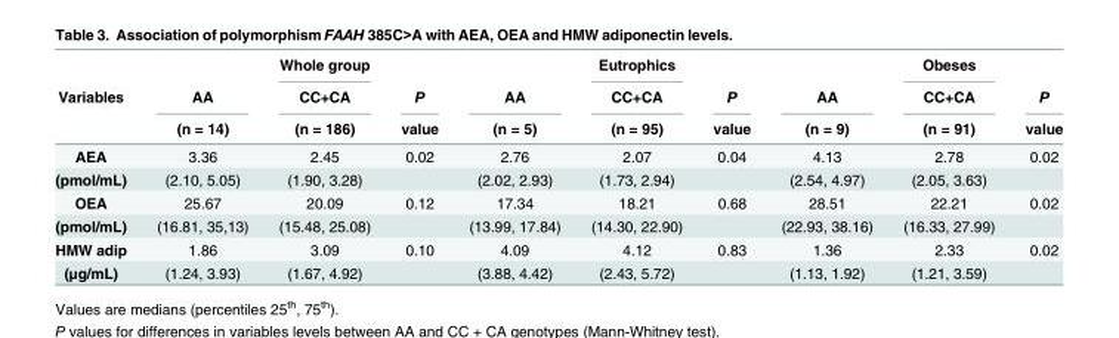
<table><thead><tr><td rowspan="3">Variables</td><td rowspan="3">AA (n = 14)</td><td rowspan="3">Whole group CC+CA (n = 186)</td><td rowspan="3">P value</td><td rowspan="3">AA (n = 5)</td><td rowspan="3">Eutrophics CC+CA (n = 95)</td><td rowspan="3">P value</td><td rowspan="3">AA (n = 9)</td><td rowspan="3">Obeses CC+CA (n = 91)</td><td rowspan="3">P value</td></tr><tr></tr><tr></tr></thead><tbody><tr><td>AEA</td><td>3.36</td><td>2.45</td><td>0.02</td><td>2.76</td><td>2.07</td><td>0.04</td><td>4.13</td><td>2.78</td><td>0.02</td></tr><tr><td>(pmol/mL)</td><td>(2.10, 5.05)</td><td>(1.90, 3.28)</td><td></td><td>(2.02, 2.93)</td><td>(1.73, 2.94)</td><td></td><td>(2.54, 4.97)</td><td>(2.05, 3.63)</td><td></td></tr><tr><td>OEA</td><td>25.67</td><td>20.09</td><td>0.12</td><td>17.34</td><td>18.21</td><td>0.68</td><td>28.51</td><td>22.21</td><td>0.02</td></tr><tr><td>(pmol/mL)</td><td>(16.81, 35,13)</td><td>(15.48, 25.08)</td><td></td><td>(13.99, 17.84)</td><td>(14.30, 22.90)</td><td></td><td>(22.93, 38.16)</td><td>(16.33, 27.99)</td><td></td></tr><tr><td>HMW adip</td><td>1.86</td><td>3.09</td><td>0.10</td><td>4.09</td><td>4.12</td><td>0.83</td><td>1.36</td><td>2.33</td><td>0.02</td></tr><tr><td>(μg/mL)</td><td>(1.24, 3.93)</td><td>(1.67, 4.92)</td><td></td><td>(3.88, 4.42)</td><td>(2.43, 5.72)</td><td></td><td>(1.13, 1.92)</td><td>(1.21, 3.59)</td><td></td></tr></tbody></table>